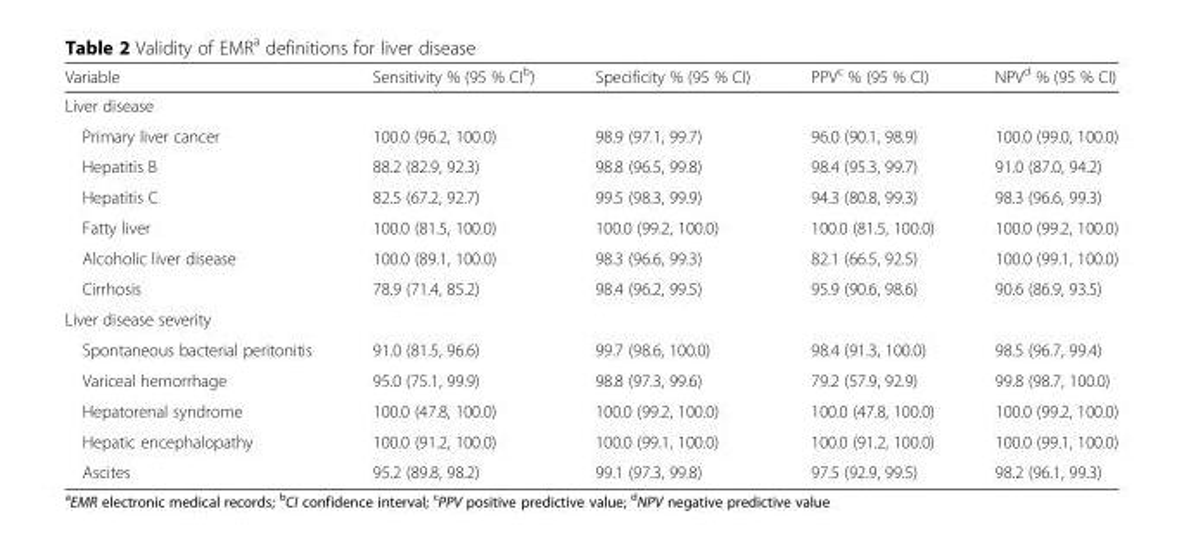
<table><thead><tr><td>Variable</td><td>Sensitivity % (95 % CI<sup>b</sup>)</td><td>Specificity % (95 % CI)</td><td>PPV<sup>c</sup> % (95 % CI)</td><td>NPV<sup>d</sup> % (95 % CI)</td></tr></thead><tbody><tr><td colspan="5">Liver disease</td></tr><tr><td>Primary liver cancer</td><td>100.0 (96.2, 100.0)</td><td>98.9 (97.1, 99.7)</td><td>96.0 (90.1, 98.9)</td><td>100.0 (99.0, 100.0)</td></tr><tr><td>Hepatitis B</td><td>88.2 (82.9, 92.3)</td><td>98.8 (96.5, 99.8)</td><td>98.4 (95.3, 99.7)</td><td>91.0 (87.0, 94.2)</td></tr><tr><td>Hepatitis C</td><td>82.5 (67.2, 92.7)</td><td>99.5 (98.3, 99.9)</td><td>94.3 (80.8, 99.3)</td><td>98.3 (96.6, 99.3)</td></tr><tr><td>Fatty liver</td><td>100.0 (81.5, 100.0)</td><td>100.0 (99.2, 100.0)</td><td>100.0 (81.5, 100.0)</td><td>100.0 (99.2, 100.0)</td></tr><tr><td>Alcoholic liver disease</td><td>100.0 (89.1, 100.0)</td><td>98.3 (96.6, 99.3)</td><td>82.1 (66.5, 92.5)</td><td>100.0 (99.1, 100.0)</td></tr><tr><td>Cirrhosis</td><td>78.9 (71.4, 85.2)</td><td>98.4 (96.2, 99.5)</td><td>95.9 (90.6, 98.6)</td><td>90.6 (86.9, 93.5)</td></tr><tr><td colspan="5">Liver disease severity</td></tr><tr><td>Spontaneous bacterial peritonitis</td><td>91.0 (81.5, 96.6)</td><td>99.7 (98.6, 100.0)</td><td>98.4 (91.3, 100.0)</td><td>98.5 (96.7, 99.4)</td></tr><tr><td>Variceal hemorrhage</td><td>95.0 (75.1, 99.9)</td><td>98.8 (97.3, 99.6)</td><td>79.2 (57.9, 92.9)</td><td>99.8 (98.7, 100.0)</td></tr><tr><td>Hepatorenal syndrome</td><td>100.0 (47.8, 100.0)</td><td>100.0 (99.2, 100.0)</td><td>100.0 (47.8, 100.0)</td><td>100.0 (99.2, 100.0)</td></tr><tr><td>Hepatic encephalopathy</td><td>100.0 (91.2, 100.0)</td><td>100.0 (99.1, 100.0)</td><td>100.0 (91.2, 100.0)</td><td>100.0 (99.1, 100.0)</td></tr><tr><td>Ascites</td><td>95.2 (89.8, 98.2)</td><td>99.1 (97.3, 99.8)</td><td>97.5 (92.9, 99.5)</td><td>98.2 (96.1, 99.3)</td></tr></tbody></table>